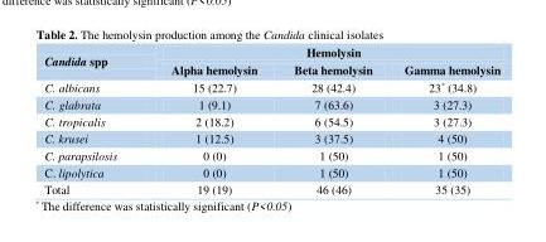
<table><thead><tr><td rowspan="2">Candida spp</td><td colspan="3">Hemolysin</td></tr><tr><td>Alpha hemolysin</td><td>Beta hemolysin</td><td>Gamma hemolysin</td></tr></thead><tbody><tr><td>C. albicans</td><td>15 (22.7)</td><td>28 (42.4)</td><td>(34.8) * 23</td></tr><tr><td>C. glabrata</td><td>1 (9.1)</td><td>7 (63.6)</td><td>3 (27.3)</td></tr><tr><td>C. tropicalis</td><td>2 (18.2)</td><td>6 (54.5)</td><td>3 (27.3)</td></tr><tr><td>C. krusei</td><td>1 (12.5)</td><td>3 (37.5)</td><td>4 (50)</td></tr><tr><td>C. parapsilosis</td><td>0 (0)</td><td>1 (50)</td><td>1 (50)</td></tr><tr><td>C. lipolytica</td><td>0 (0)</td><td>1 (50)</td><td>1 (50)</td></tr><tr><td>Total</td><td>19 (19)</td><td>46 (46)</td><td>35 (35)</td></tr></tbody></table>